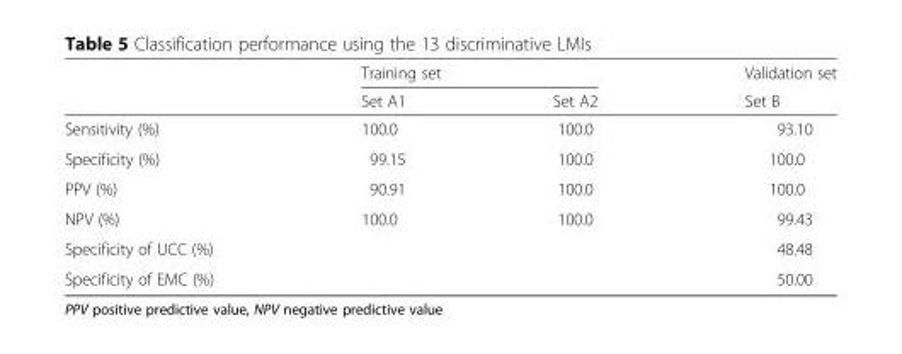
<table><thead><tr><td rowspan="2"></td><td colspan="2">Training set</td><td rowspan="2">Validation set Set B</td></tr><tr><td>Set A1</td><td>Set A2</td></tr></thead><tbody><tr><td>Sensitivity (%)</td><td>100.0</td><td>100.0</td><td>93.10</td></tr><tr><td>Specificity (%)</td><td>99.15</td><td>100.0</td><td>100.0</td></tr><tr><td>PPV (%)</td><td>90.91</td><td>100.0</td><td>100.0</td></tr><tr><td>NPV (%)</td><td>100.0</td><td>100.0</td><td>99.43</td></tr><tr><td>Specificity of UCC (%)</td><td></td><td></td><td>48.48</td></tr><tr><td>Specificity of EMC (%)</td><td></td><td></td><td>50.00</td></tr></tbody></table>